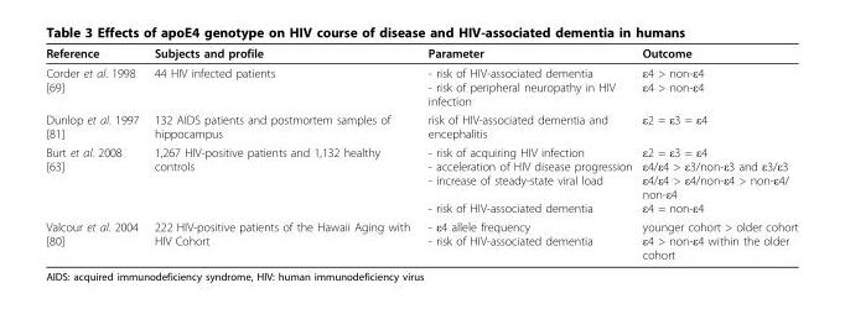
<table><thead><tr><td>Reference</td><td>Subjects and profile</td><td>Parameter</td><td>Outcome</td></tr></thead><tbody><tr><td>Corder et al. 1998 [69]</td><td>44 HIV infected patients</td><td>- risk of HIV-associated dementia - risk of peripheral neuropathy in HIV infection</td><td>ε4 &gt; non-ε4 ε4 &gt; non-ε4</td></tr><tr><td>Dunlop et al. 1997 [81]</td><td>132 AIDS patients and postmortem samples of hippocampus</td><td>risk of HIV-associated dementia and encephalitis</td><td>ε2 = ε3 = ε4</td></tr><tr><td>Burt et al. 2008 [63]</td><td>1,267 HIV-positive patients and 1,132 healthy controls</td><td>- risk of acquiring HIV infection - acceleration of HIV disease progression - increase of steady-state viral load - risk of HIV-associated dementia</td><td>ε2 = ε3 = ε4 ε4/ε4 &gt; ε3/non-ε3 and ε3/ε3 ε4/ε4 &gt; ε4/non-ε4 &gt; non-ε4/ non-ε4 ε4 = non-ε4</td></tr><tr><td>Valcour et al. 2004 [80]</td><td>222 HIV-positive patients of the Hawaii Aging with HIV Cohort</td><td>- ε4 allele frequency - risk of HIV-associated dementia</td><td>younger cohort &gt; older cohort ε4 &gt; non-ε4 within the older cohort</td></tr></tbody></table>